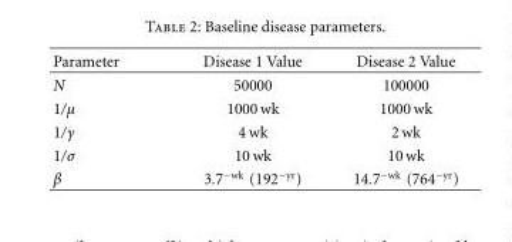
<table><thead><tr><td>Parameter</td><td>Disease 1 Value</td><td>Disease 2 Value</td></tr></thead><tbody><tr><td>N</td><td>50000</td><td>100000</td></tr><tr><td>1/μ</td><td>1000 wk</td><td>1000 wk</td></tr><tr><td>1/γ</td><td>4 wk</td><td>2 wk</td></tr><tr><td>1/σ</td><td>10 wk</td><td>10 wk</td></tr><tr><td>β</td><td>3.7<sup>−wk</sup> (192<sup>−yr</sup>)</td><td>14.7<sup>−wk</sup> (764<sup>−yr</sup>)</td></tr></tbody></table>